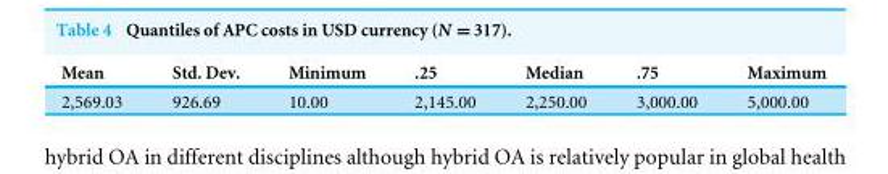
<table><thead><tr><td>Mean</td><td>Std. Dev.</td><td>Minimum</td><td>.25</td><td>Median</td><td>.75</td><td>Maximum</td></tr></thead><tbody><tr><td>2,569.03</td><td>926.69</td><td>10.00</td><td>2,145.00</td><td>2,250.00</td><td>3,000.00</td><td>5,000.00</td></tr></tbody></table>